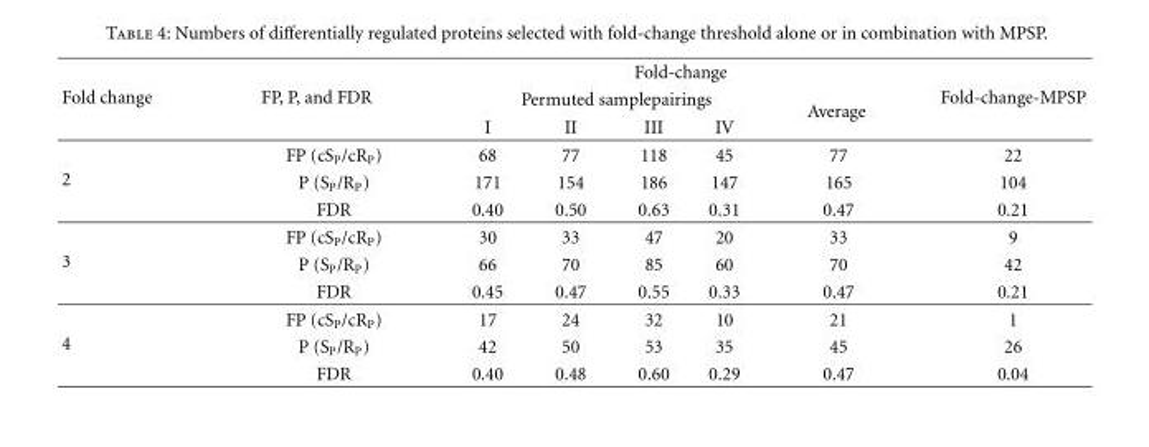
<table><thead><tr><td rowspan="3">Fold change</td><td rowspan="3">FP, P, and FDR</td><td colspan="5">Fold-change</td><td rowspan="3">Fold-change-MPSP</td></tr><tr><td colspan="4">Permuted samplepairings</td><td rowspan="2">Average</td></tr><tr><td>I</td><td>II</td><td>III</td><td>IV</td></tr></thead><tbody><tr><td rowspan="3">2</td><td>FP (cS<sub>P</sub>/cR<sub>P</sub>)</td><td>68</td><td>77</td><td>118</td><td>45</td><td>77</td><td>22</td></tr><tr><td>P (S<sub>P</sub>/R<sub>P</sub>)</td><td>171</td><td>154</td><td>186</td><td>147</td><td>165</td><td>104</td></tr><tr><td>FDR</td><td>0.40</td><td>0.50</td><td>0.63</td><td>0.31</td><td>0.47</td><td>0.21</td></tr><tr><td rowspan="3">3</td><td>FP (cS<sub>P</sub>/cR<sub>P</sub>)</td><td>30</td><td>33</td><td>47</td><td>20</td><td>33</td><td>9</td></tr><tr><td>P (S<sub>P</sub>/R<sub>P</sub>)</td><td>66</td><td>70</td><td>85</td><td>60</td><td>70</td><td>42</td></tr><tr><td>FDR</td><td>0.45</td><td>0.47</td><td>0.55</td><td>0.33</td><td>0.47</td><td>0.21</td></tr><tr><td rowspan="3">4</td><td>FP (cS<sub>P</sub>/cR<sub>P</sub>)</td><td>17</td><td>24</td><td>32</td><td>10</td><td>21</td><td>1</td></tr><tr><td>P (S<sub>P</sub>/R<sub>P</sub>)</td><td>42</td><td>50</td><td>53</td><td>35</td><td>45</td><td>26</td></tr><tr><td>FDR</td><td>0.40</td><td>0.48</td><td>0.60</td><td>0.29</td><td>0.47</td><td>0.04</td></tr></tbody></table>